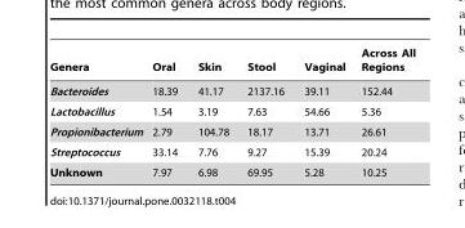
<table><thead><tr><td>Genera</td><td>Oral</td><td>Skin</td><td>Stool</td><td>Vaginal</td><td>Across All Regions</td></tr></thead><tbody><tr><td>Bacteroides</td><td>18.39</td><td>41.17</td><td>2137.16</td><td>39.11</td><td>152.44</td></tr><tr><td>Lactobacillus</td><td>1.54</td><td>3.19</td><td>7.63</td><td>54.66</td><td>5.36</td></tr><tr><td>Propionibacterium</td><td>2.79</td><td>104.78</td><td>18.17</td><td>13.71</td><td>26.61</td></tr><tr><td>Streptococcus</td><td>33.14</td><td>7.76</td><td>9.27</td><td>15.39</td><td>20.24</td></tr><tr><td>Unknown</td><td>7.97</td><td>6.98</td><td>69.95</td><td>5.28</td><td>10.25</td></tr></tbody></table>